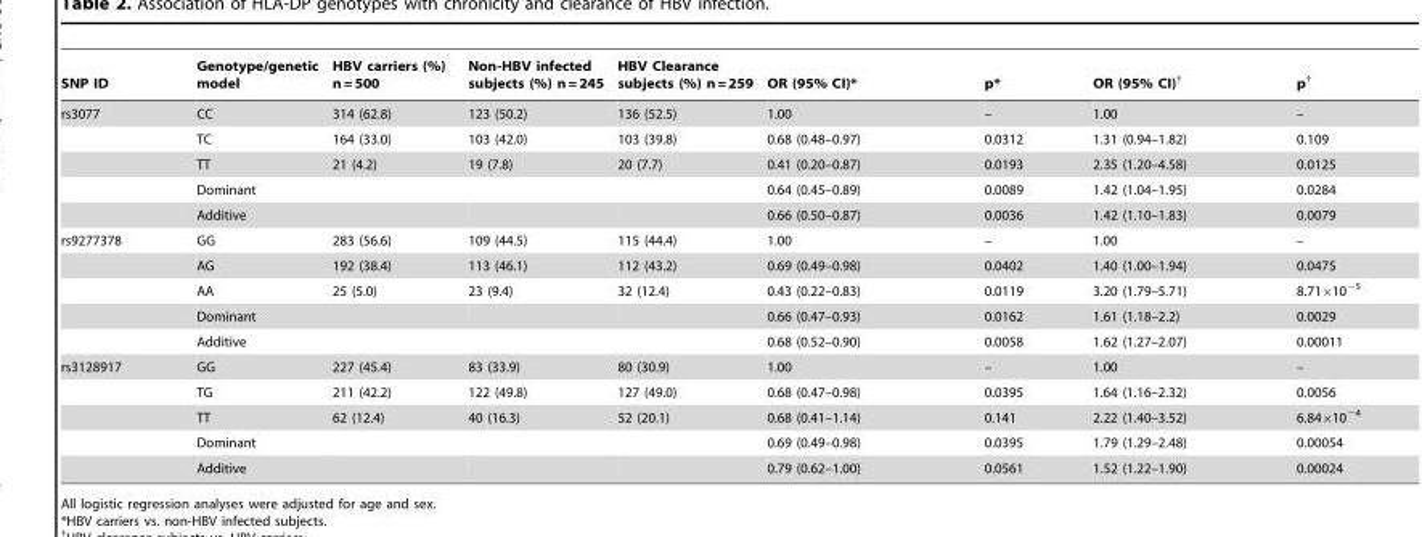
<table><thead><tr><td>SNP ID</td><td>Genotype/genetic model</td><td>HBV carriers (%) n = 500</td><td>Non-HBV infected subjects (%) n = 245</td><td>HBV Clearance subjects (%) n = 259</td><td>OR (95% CI)*</td><td>p*</td><td>OR (95% CI)†</td><td>p†</td></tr></thead><tbody><tr><td rowspan="5">rs3077</td><td>CC</td><td>314 (62.8)</td><td>123 (50.2)</td><td>136 (52.5)</td><td>1.00</td><td>–</td><td>1.00</td><td>–</td></tr><tr><td>TC</td><td>164 (33.0)</td><td>103 (42.0)</td><td>103 (39.8)</td><td>0.68 (0.48–0.97)</td><td>0.0312</td><td>1.31 (0.94–1.82)</td><td>0.109</td></tr><tr><td>TT</td><td>21 (4.2)</td><td>19 (7.8)</td><td>20 (7.7)</td><td>0.41 (0.20–0.87)</td><td>0.0193</td><td>2.35 (1.20–4.58)</td><td>0.0125</td></tr><tr><td>Dominant</td><td></td><td></td><td></td><td>0.64 (0.45–0.89)</td><td>0.0089</td><td>1.42 (1.04–1.95)</td><td>0.0284</td></tr><tr><td>Additive</td><td></td><td></td><td></td><td>0.66 (0.50–0.87)</td><td>0.0036</td><td>1.42 (1.10–1.83)</td><td>0.0079</td></tr><tr><td rowspan="5">rs9277378</td><td>GG</td><td>283 (56.6)</td><td>109 (44.5)</td><td>115 (44.4)</td><td>1.00</td><td>–</td><td>1.00</td><td>–</td></tr><tr><td>AG</td><td>192 (38.4)</td><td>113 (46.1)</td><td>112 (43.2)</td><td>0.69 (0.49–0.98)</td><td>0.0402</td><td>1.40 (1.00–1.94)</td><td>0.0475</td></tr><tr><td>AA</td><td>25 (5.0)</td><td>23 (9.4)</td><td>32 (12.4)</td><td>0.43 (0.22–0.83)</td><td>0.0119</td><td>3.20 (1.79–5.71)</td><td>8.71×10<sup>−5</sup></td></tr><tr><td>Dominant</td><td></td><td></td><td></td><td>0.66 (0.47–0.93)</td><td>0.0162</td><td>1.61 (1.18–2.2)</td><td>0.0029</td></tr><tr><td>Additive</td><td></td><td></td><td></td><td>0.68 (0.52–0.90)</td><td>0.0058</td><td>1.62 (1.27–2.07)</td><td>0.00011</td></tr><tr><td rowspan="5">rs3128917</td><td>GG</td><td>227 (45.4)</td><td>83 (33.9)</td><td>80 (30.9)</td><td>1.00</td><td>–</td><td>1.00</td><td>–</td></tr><tr><td>TG</td><td>211 (42.2)</td><td>122 (49.8)</td><td>127 (49.0)</td><td>0.68 (0.47–0.98)</td><td>0.0395</td><td>1.64 (1.16–2.32)</td><td>0.0056</td></tr><tr><td>TT</td><td>62 (12.4)</td><td>40 (16.3)</td><td>52 (20.1)</td><td>0.68 (0.41–1.14)</td><td>0.141</td><td>2.22 (1.40–3.52)</td><td>6.84×10<sup>−4</sup></td></tr><tr><td>Dominant</td><td></td><td></td><td></td><td>0.69 (0.49–0.98)</td><td>0.0395</td><td>1.79 (1.29–2.48)</td><td>0.00054</td></tr><tr><td>Additive</td><td></td><td></td><td></td><td>0.79 (0.62–1.00)</td><td>0.0561</td><td>1.52 (1.22–1.90)</td><td>0.00024</td></tr></tbody></table>